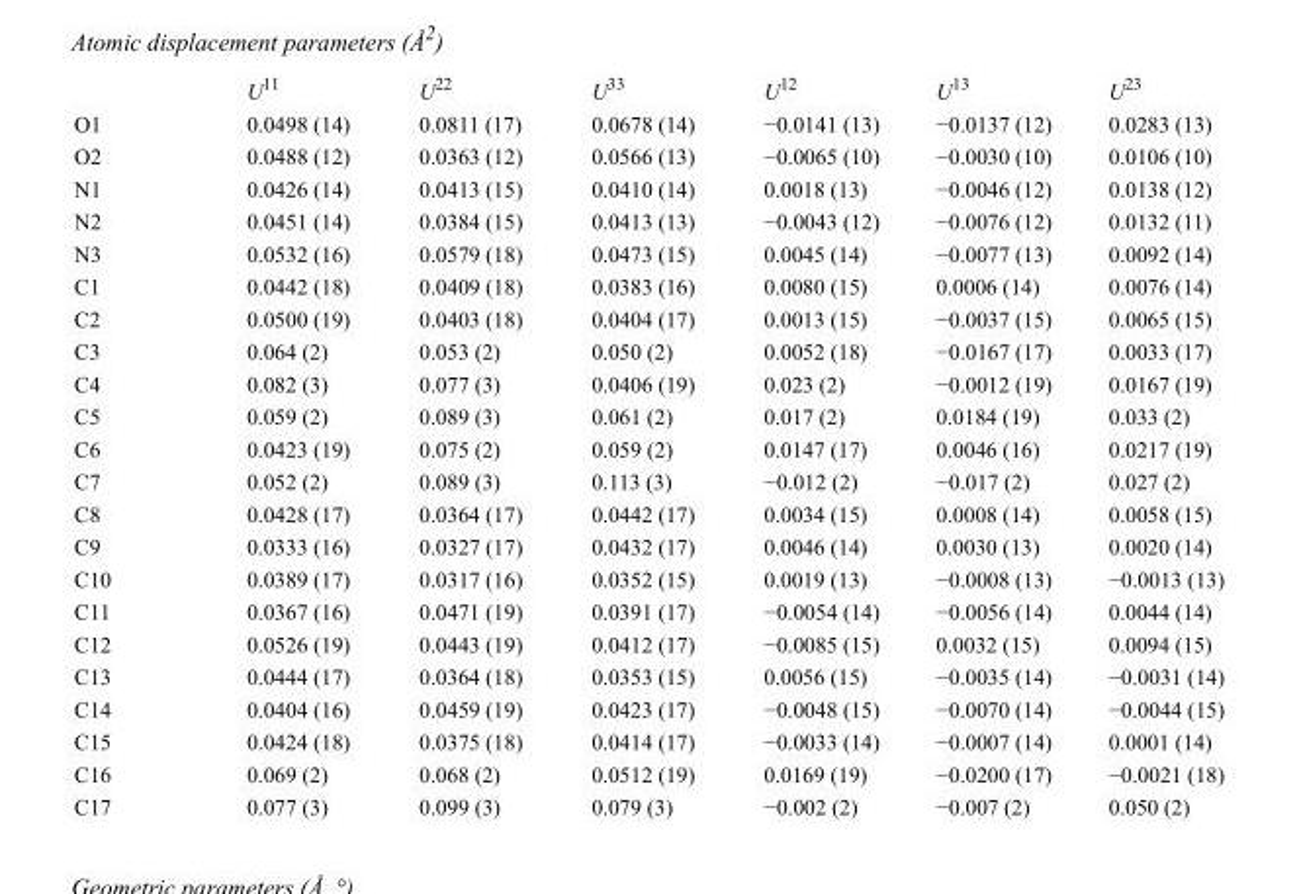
<table><thead><tr><td></td><td>U<sup>11</sup></td><td>U<sup>22</sup></td><td>U<sup>33</sup></td><td>U<sup>12</sup></td><td>U<sup>13</sup></td><td>U<sup>23</sup></td></tr></thead><tbody><tr><td>O1</td><td>0.0498 (14)</td><td>0.0811 (17)</td><td>0.0678 (14)</td><td>−0.0141 (13)</td><td>−0.0137 (12)</td><td>0.0283 (13)</td></tr><tr><td>O2</td><td>0.0488 (12)</td><td>0.0363 (12)</td><td>0.0566 (13)</td><td>−0.0065 (10)</td><td>−0.0030 (10)</td><td>0.0106 (10)</td></tr><tr><td>N1</td><td>0.0426 (14)</td><td>0.0413 (15)</td><td>0.0410 (14)</td><td>0.0018 (13)</td><td>−0.0046 (12)</td><td>0.0138 (12)</td></tr><tr><td>N2</td><td>0.0451 (14)</td><td>0.0384 (15)</td><td>0.0413 (13)</td><td>−0.0043 (12)</td><td>−0.0076 (12)</td><td>0.0132 (11)</td></tr><tr><td>N3</td><td>0.0532 (16)</td><td>0.0579 (18)</td><td>0.0473 (15)</td><td>0.0045 (14)</td><td>−0.0077 (13)</td><td>0.0092 (14)</td></tr><tr><td>C1</td><td>0.0442 (18)</td><td>0.0409 (18)</td><td>0.0383 (16)</td><td>0.0080 (15)</td><td>0.0006 (14)</td><td>0.0076 (14)</td></tr><tr><td>C2</td><td>0.0500 (19)</td><td>0.0403 (18)</td><td>0.0404 (17)</td><td>0.0013 (15)</td><td>−0.0037 (15)</td><td>0.0065 (15)</td></tr><tr><td>C3</td><td>0.064 (2)</td><td>0.053 (2)</td><td>0.050 (2)</td><td>0.0052 (18)</td><td>−0.0167 (17)</td><td>0.0033 (17)</td></tr><tr><td>C4</td><td>0.082 (3)</td><td>0.077 (3)</td><td>0.0406 (19)</td><td>0.023 (2)</td><td>−0.0012 (19)</td><td>0.0167 (19)</td></tr><tr><td>C5</td><td>0.059 (2)</td><td>0.089 (3)</td><td>0.061 (2)</td><td>0.017 (2)</td><td>0.0184 (19)</td><td>0.033 (2)</td></tr><tr><td>C6</td><td>0.0423 (19)</td><td>0.075 (2)</td><td>0.059 (2)</td><td>0.0147 (17)</td><td>0.0046 (16)</td><td>0.0217 (19)</td></tr><tr><td>C7</td><td>0.052 (2)</td><td>0.089 (3)</td><td>0.113 (3)</td><td>−0.012 (2)</td><td>−0.017 (2)</td><td>0.027 (2)</td></tr><tr><td>C8</td><td>0.0428 (17)</td><td>0.0364 (17)</td><td>0.0442 (17)</td><td>0.0034 (15)</td><td>0.0008 (14)</td><td>0.0058 (15)</td></tr><tr><td>C9</td><td>0.0333 (16)</td><td>0.0327 (17)</td><td>0.0432 (17)</td><td>0.0046 (14)</td><td>0.0030 (13)</td><td>0.0020 (14)</td></tr><tr><td>C10</td><td>0.0389 (17)</td><td>0.0317 (16)</td><td>0.0352 (15)</td><td>0.0019 (13)</td><td>−0.0008 (13)</td><td>−0.0013 (13)</td></tr><tr><td>C11</td><td>0.0367 (16)</td><td>0.0471 (19)</td><td>0.0391 (17)</td><td>−0.0054 (14)</td><td>−0.0056 (14)</td><td>0.0044 (14)</td></tr><tr><td>C12</td><td>0.0526 (19)</td><td>0.0443 (19)</td><td>0.0412 (17)</td><td>−0.0085 (15)</td><td>0.0032 (15)</td><td>0.0094 (15)</td></tr><tr><td>C13</td><td>0.0444 (17)</td><td>0.0364 (18)</td><td>0.0353 (15)</td><td>0.0056 (15)</td><td>−0.0035 (14)</td><td>−0.0031 (14)</td></tr><tr><td>C14</td><td>0.0404 (16)</td><td>0.0459 (19)</td><td>0.0423 (17)</td><td>−0.0048 (15)</td><td>−0.0070 (14)</td><td>−0.0044 (15)</td></tr><tr><td>C15</td><td>0.0424 (18)</td><td>0.0375 (18)</td><td>0.0414 (17)</td><td>−0.0033 (14)</td><td>−0.0007 (14)</td><td>0.0001 (14)</td></tr><tr><td>C16</td><td>0.069 (2)</td><td>0.068 (2)</td><td>0.0512 (19)</td><td>0.0169 (19)</td><td>−0.0200 (17)</td><td>−0.0021 (18)</td></tr><tr><td>C17</td><td>0.077 (3)</td><td>0.099 (3)</td><td>0.079 (3)</td><td>−0.002 (2)</td><td>−0.007 (2)</td><td>0.050 (2)</td></tr></tbody></table>